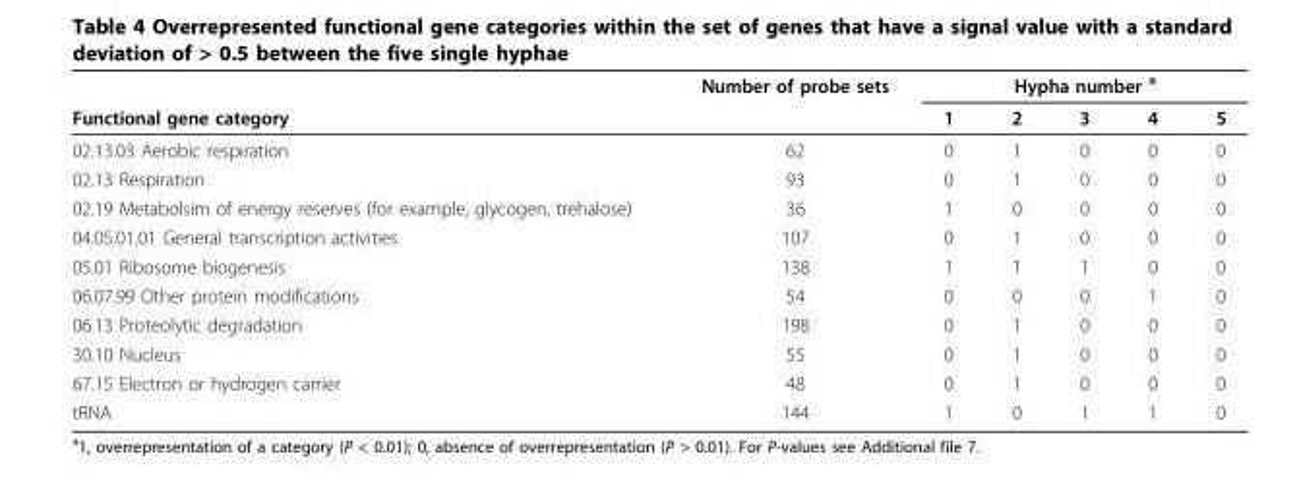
<table><thead><tr><td rowspan="2">Functional gene category</td><td rowspan="2">Number of probe sets</td><td colspan="5">Hypha number <sup>a</sup></td></tr><tr><td>1</td><td>2</td><td>3</td><td>4</td><td>5</td></tr></thead><tbody><tr><td>02.13.03 Aerobic respiration</td><td>62</td><td>0</td><td>1</td><td>0</td><td>0</td><td>0</td></tr><tr><td>02.13 Respiration</td><td>93</td><td>0</td><td>1</td><td>0</td><td>0</td><td>0</td></tr><tr><td>02.19 Metabolsim of energy reserves (for example, glycogen, trehalose)</td><td>36</td><td>1</td><td>0</td><td>0</td><td>0</td><td>0</td></tr><tr><td>04.05.01.01 General transcription activities</td><td>107</td><td>0</td><td>1</td><td>0</td><td>0</td><td>0</td></tr><tr><td>05.01 Ribosome biogenesis</td><td>138</td><td>1</td><td>1</td><td>1</td><td>0</td><td>0</td></tr><tr><td>06.07.99 Other protein modifications</td><td>54</td><td>0</td><td>0</td><td>0</td><td>1</td><td>0</td></tr><tr><td>06.13 Proteolytic degradation</td><td>198</td><td>0</td><td>1</td><td>0</td><td>0</td><td>0</td></tr><tr><td>30.10 Nucleus</td><td>55</td><td>0</td><td>1</td><td>0</td><td>0</td><td>0</td></tr><tr><td>67.15 Electron or hydrogen carrier</td><td>48</td><td>0</td><td>1</td><td>0</td><td>0</td><td>0</td></tr><tr><td>tRNA</td><td>144</td><td>1</td><td>0</td><td>1</td><td>1</td><td>0</td></tr></tbody></table>